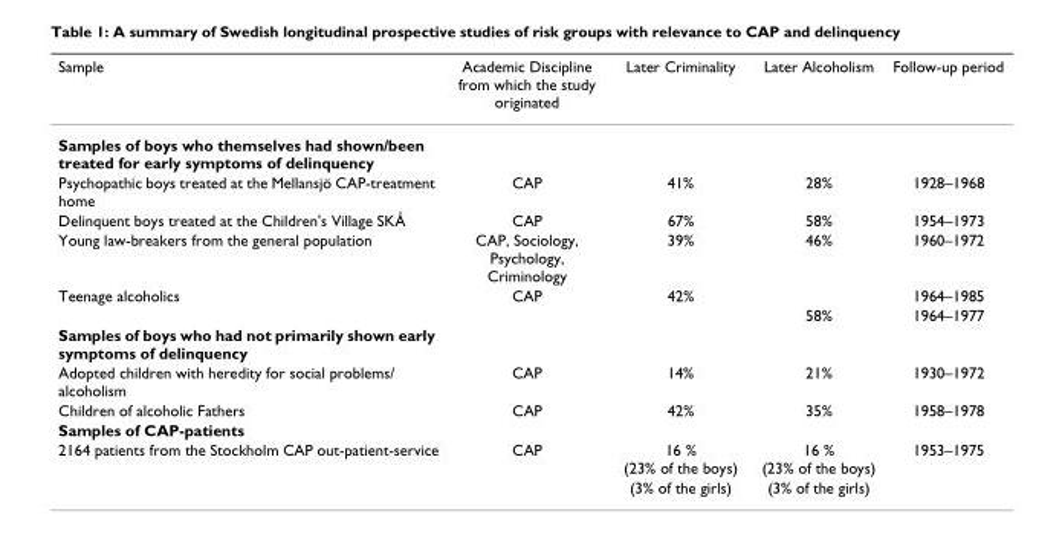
<table><thead><tr><td>Sample</td><td>Academic Discipline from which the study originated</td><td>Later Criminality</td><td>Later Alcoholism</td><td>Follow-up period</td></tr></thead><tbody><tr><td colspan="5">Samples of boys who themselves had shown/been treated for early symptoms of delinquency</td></tr><tr><td>Psychopathic boys treated at the Mellansjö CAP-treatment home</td><td>CAP</td><td>41%</td><td>28%</td><td>1928–1968</td></tr><tr><td>Delinquent boys treated at the Children&#x27;s Village SKÅ</td><td>CAP</td><td>67%</td><td>58%</td><td>1954–1973</td></tr><tr><td>Young law-breakers from the general population</td><td>CAP, Sociology, Psychology, Criminology</td><td>39%</td><td>46%</td><td>1960–1972</td></tr><tr><td rowspan="2">Teenage alcoholics</td><td>CAP</td><td>42%</td><td></td><td>1964–1985</td></tr><tr><td></td><td></td><td>58%</td><td>1964–1977</td></tr><tr><td colspan="5">Samples of boys who had not primarily shown early symptoms of delinquency</td></tr><tr><td>Adopted children with heredity for social problems/ alcoholism</td><td>CAP</td><td>14%</td><td>21%</td><td>1930–1972</td></tr><tr><td>Children of alcoholic Fathers</td><td>CAP</td><td>42%</td><td>35%</td><td>1958–1978</td></tr><tr><td colspan="5">Samples of CAP-patients</td></tr><tr><td rowspan="2">2164 patients from the Stockholm CAP out-patient-service</td><td>CAP</td><td>16 % (23% of the boys)</td><td>16 % (23% of the boys)</td><td>1953–1975</td></tr><tr><td></td><td>(3% of the girls)</td><td>(3% of the girls)</td><td></td></tr></tbody></table>